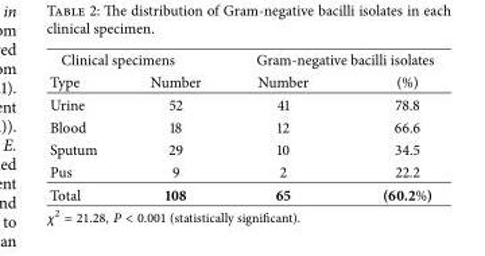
<table><thead><tr><td colspan="2">Clinical specimens</td><td colspan="2">Gram-negative bacilli isolates</td></tr><tr><td>Type</td><td>Number</td><td>Number</td><td>(%)</td></tr></thead><tbody><tr><td>Urine</td><td>52</td><td>41</td><td>78.8</td></tr><tr><td>Blood</td><td>18</td><td>12</td><td>66.6</td></tr><tr><td>Sputum</td><td>29</td><td>10</td><td>34.5</td></tr><tr><td>Pus</td><td>9</td><td>2</td><td>22.2</td></tr><tr><td>Total</td><td>108</td><td>65</td><td>(60.2%)</td></tr></tbody></table>